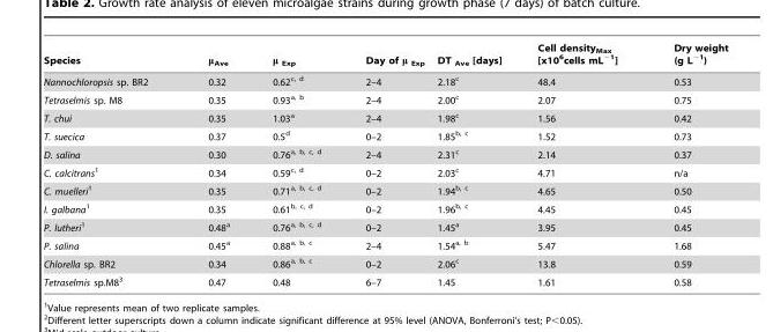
<table><thead><tr><td>Species</td><td>μ<sub>Ave</sub></td><td>μ <sub>Exp</sub></td><td>Day of μ <sub>Exp</sub></td><td>DT <sub>Ave</sub> [days]</td><td>Cell density<sub>Max</sub> [x10<sup>6</sup>cells mL<sup>−1</sup>]</td><td>Dry weight (g L<sup>−1</sup>)</td></tr></thead><tbody><tr><td>Nannochloropsis sp. BR2</td><td>0.32</td><td>0.62<sup>c, d</sup></td><td>2–4</td><td>2.18<sup>c</sup></td><td>48.4</td><td>0.53</td></tr><tr><td>Tetraselmis sp. M8</td><td>0.35</td><td>0.93<sup>a, b</sup></td><td>2–4</td><td>2.00<sup>c</sup></td><td>2.07</td><td>0.75</td></tr><tr><td>T. chui</td><td>0.35</td><td>1.03<sup>a</sup></td><td>2–4</td><td>1.98<sup>c</sup></td><td>1.56</td><td>0.42</td></tr><tr><td>T. suecica</td><td>0.37</td><td>0.5<sup>d</sup></td><td>0–2</td><td>1.85<sup>b, c</sup></td><td>1.52</td><td>0.73</td></tr><tr><td>D. salina</td><td>0.30</td><td>0.76<sup>a, b, c, d</sup></td><td>2–4</td><td>2.31<sup>c</sup></td><td>2.14</td><td>0.37</td></tr><tr><td>C. calcitrans1</td><td>0.34</td><td>0.59<sup>c, d</sup></td><td>0–2</td><td>2.03<sup>c</sup></td><td>4.71</td><td>n/a</td></tr><tr><td>C. muelleri1</td><td>0.35</td><td>0.71<sup>a, b, c, d</sup></td><td>0–2</td><td>1.94<sup>b, c</sup></td><td>4.65</td><td>0.50</td></tr><tr><td>I. galbana1</td><td>0.35</td><td>0.61<sup>b, c, d</sup></td><td>0–2</td><td>1.96<sup>b, c</sup></td><td>4.45</td><td>0.45</td></tr><tr><td>P. lutheri1</td><td>0.48<sup>a</sup></td><td>0.76<sup>a, b, c, d</sup></td><td>0–2</td><td>1.45<sup>a</sup></td><td>3.95</td><td>0.45</td></tr><tr><td>P. salina</td><td>0.45<sup>a</sup></td><td>0.88<sup>a, b, c</sup></td><td>2–4</td><td>1.54<sup>a, b</sup></td><td>5.47</td><td>1.68</td></tr><tr><td>Chlorella sp. BR2</td><td>0.34</td><td>0.86<sup>a, b, c</sup></td><td>0–2</td><td>2.06<sup>c</sup></td><td>13.8</td><td>0.59</td></tr><tr><td>Tetraselmis sp.M8<sup>3</sup></td><td>0.47</td><td>0.48</td><td>6–7</td><td>1.45</td><td>1.61</td><td>0.58</td></tr></tbody></table>